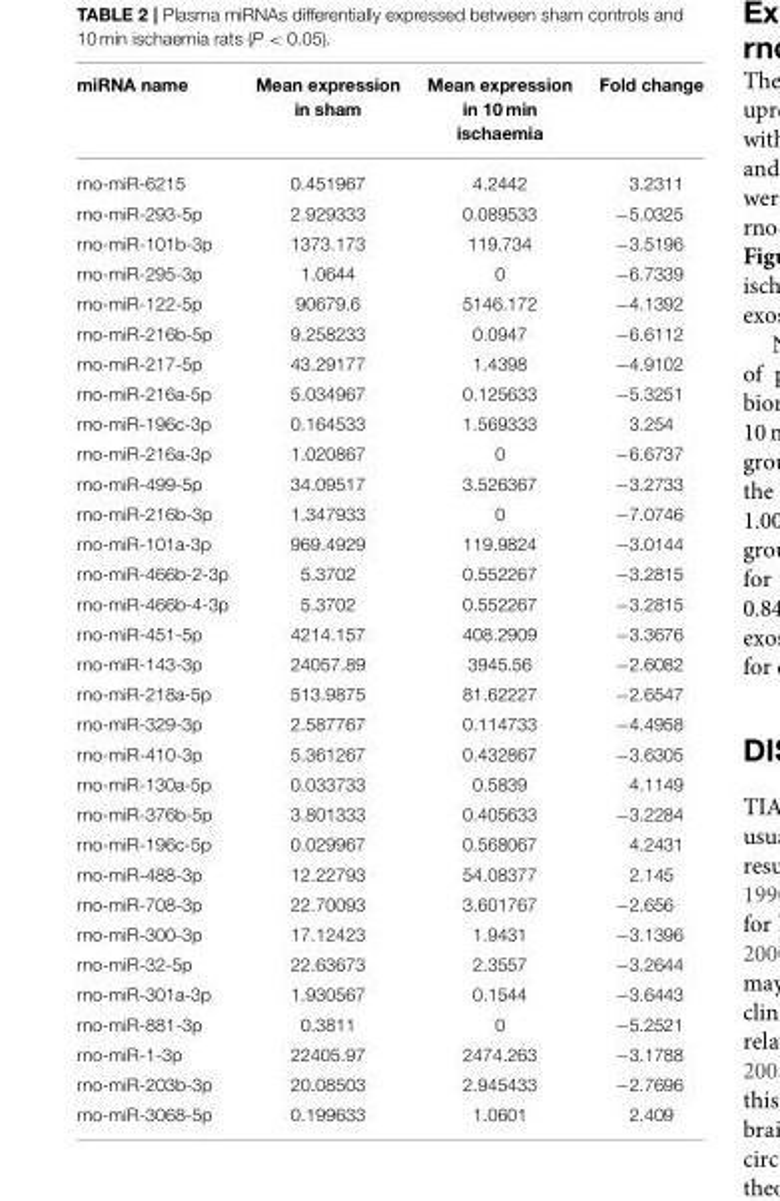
<table><thead><tr><td>miRNA name</td><td>Mean expression in sham</td><td>Mean expression in 10 min ischaemia</td><td>Fold change</td></tr></thead><tbody><tr><td>rno-miR-6215</td><td>0.451967</td><td>4.2442</td><td>3.2311</td></tr><tr><td>rno-miR-293-5p</td><td>2.929333</td><td>0.089533</td><td>−5.0325</td></tr><tr><td>rno-miR-101b-3p</td><td>1373.173</td><td>119.734</td><td>−3.5196</td></tr><tr><td>rno-miR-295-3p</td><td>1.0644</td><td>0</td><td>−6.7339</td></tr><tr><td>rno-miR-122-5p</td><td>90679.6</td><td>5146.172</td><td>−4.1392</td></tr><tr><td>rno-miR-216b-5p</td><td>9.258233</td><td>0.0947</td><td>−6.6112</td></tr><tr><td>rno-miR-217-5p</td><td>43.29177</td><td>1.4398</td><td>−4.9102</td></tr><tr><td>rno-miR-216a-5p</td><td>5.034967</td><td>0.125633</td><td>−5.3251</td></tr><tr><td>rno-miR-196c-3p</td><td>0.164533</td><td>1.569333</td><td>3.254</td></tr><tr><td>rno-miR-216a-3p</td><td>1.020867</td><td>0</td><td>−6.6737</td></tr><tr><td>rno-miR-499-5p</td><td>34.09517</td><td>3.526367</td><td>−3.2733</td></tr><tr><td>rno-miR-216b-3p</td><td>1.347933</td><td>0</td><td>−7.0746</td></tr><tr><td>rno-miR-101a-3p</td><td>969.4929</td><td>119.9824</td><td>−3.0144</td></tr><tr><td>rno-miR-466b-2-3p</td><td>5.3702</td><td>0.552267</td><td>−3.2815</td></tr><tr><td>rno-miR-466b-4-3p</td><td>5.3702</td><td>0.552267</td><td>−3.2815</td></tr><tr><td>rno-miR-451-5p</td><td>4214.157</td><td>408.2909</td><td>−3.3676</td></tr><tr><td>rno-miR-143-3p</td><td>24057.89</td><td>3945.56</td><td>−2.6082</td></tr><tr><td>rno-miR-218a-5p</td><td>513.9875</td><td>81.62227</td><td>−2.6547</td></tr><tr><td>rno-miR-329-3p</td><td>2.587767</td><td>0.114733</td><td>−4.4958</td></tr><tr><td>rno-miR-410-3p</td><td>5.361267</td><td>0.432867</td><td>−3.6305</td></tr><tr><td>rno-miR-130a-5p</td><td>0.033733</td><td>0.5839</td><td>4.1149</td></tr><tr><td>rno-miR-376b-5p</td><td>3.801333</td><td>0.405633</td><td>−3.2284</td></tr><tr><td>rno-miR-196c-5p</td><td>0.029967</td><td>0.568067</td><td>4.2431</td></tr><tr><td>rno-miR-488-3p</td><td>12.22793</td><td>54.08377</td><td>2.145</td></tr><tr><td>rno-miR-708-3p</td><td>22.70093</td><td>3.601767</td><td>−2.656</td></tr><tr><td>rno-miR-300-3p</td><td>17.12423</td><td>1.9431</td><td>−3.1396</td></tr><tr><td>rno-miR-32-5p</td><td>22.63673</td><td>2.3557</td><td>−3.2644</td></tr><tr><td>rno-miR-301a-3p</td><td>1.930567</td><td>0.1544</td><td>−3.6443</td></tr><tr><td>rno-miR-881-3p</td><td>0.3811</td><td>0</td><td>−5.2521</td></tr><tr><td>rno-miR-1-3p</td><td>22405.97</td><td>2474.263</td><td>−3.1788</td></tr><tr><td>rno-miR-203b-3p</td><td>20.08503</td><td>2.945433</td><td>−2.7696</td></tr><tr><td>rno-miR-3068-5p</td><td>0.199633</td><td>1.0601</td><td>2.409</td></tr></tbody></table>